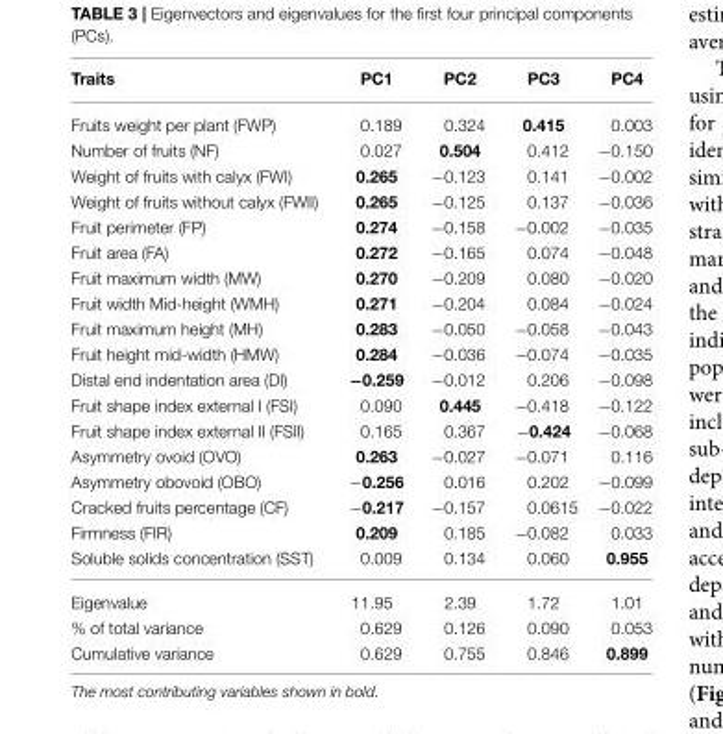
<table><thead><tr><td>Traits</td><td>PC1</td><td>PC2</td><td>PC3</td><td>PC4</td></tr></thead><tbody><tr><td>Fruits weight per plant (FWP)</td><td>0.189</td><td>0.324</td><td>0.415</td><td>0.003</td></tr><tr><td>Number of fruits (NF)</td><td>0.027</td><td>0.504</td><td>0.412</td><td>−0.150</td></tr><tr><td>Weight of fruits with calyx (FWI)</td><td>0.265</td><td>−0.123</td><td>0.141</td><td>−0.002</td></tr><tr><td>Weight of fruits without calyx (FWII)</td><td>0.265</td><td>−0.125</td><td>0.137</td><td>−0.036</td></tr><tr><td>Fruit perimeter (FP)</td><td>0.274</td><td>−0.158</td><td>−0.002</td><td>−0.035</td></tr><tr><td>Fruit area (FA)</td><td>0.272</td><td>−0.165</td><td>0.074</td><td>−0.048</td></tr><tr><td>Fruit maximum width (MW)</td><td>0.270</td><td>−0.209</td><td>0.080</td><td>−0.020</td></tr><tr><td>Fruit width Mid-height (WMH)</td><td>0.271</td><td>−0.204</td><td>0.084</td><td>−0.024</td></tr><tr><td>Fruit maximum height (MH)</td><td>0.283</td><td>−0.050</td><td>−0.058</td><td>−0.043</td></tr><tr><td>Fruit height mid-width (HMW)</td><td>0.284</td><td>−0.036</td><td>−0.074</td><td>−0.035</td></tr><tr><td>Distal end indentation area (DI)</td><td>−0.259</td><td>−0.012</td><td>0.206</td><td>−0.098</td></tr><tr><td>Fruit shape index external I (FSI)</td><td>0.090</td><td>0.445</td><td>−0.418</td><td>−0.122</td></tr><tr><td>Fruit shape index external II (FSII)</td><td>0.165</td><td>0.367</td><td>−0.424</td><td>−0.068</td></tr><tr><td>Asymmetry ovoid (OVO)</td><td>0.263</td><td>−0.027</td><td>−0.071</td><td>0.116</td></tr><tr><td>Asymmetry obovoid (OBO)</td><td>−0.256</td><td>0.016</td><td>0.202</td><td>−0.099</td></tr><tr><td>Cracked fruits percentage (CF)</td><td>−0.217</td><td>−0.157</td><td>0.0615</td><td>−0.022</td></tr><tr><td>Firmness (FIR)</td><td>0.209</td><td>0.185</td><td>−0.082</td><td>0.033</td></tr><tr><td>Soluble solids concentration (SST)</td><td>0.009</td><td>0.134</td><td>0.060</td><td>0.955</td></tr><tr><td>Eigenvalue</td><td>11.95</td><td>2.39</td><td>1.72</td><td>1.01</td></tr><tr><td>% of total variance</td><td>0.629</td><td>0.126</td><td>0.090</td><td>0.053</td></tr><tr><td>Cumulative variance</td><td>0.629</td><td>0.755</td><td>0.846</td><td>0.899</td></tr></tbody></table>